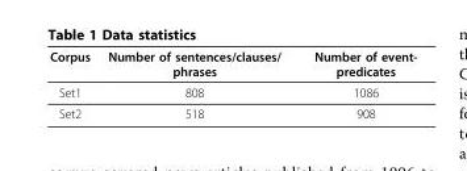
<table><thead><tr><td>Corpus</td><td>Number of sentences/clauses/ phrases</td><td>Number of event- predicates</td></tr></thead><tbody><tr><td>Set1</td><td>808</td><td>1086</td></tr><tr><td>Set2</td><td>518</td><td>908</td></tr></tbody></table>